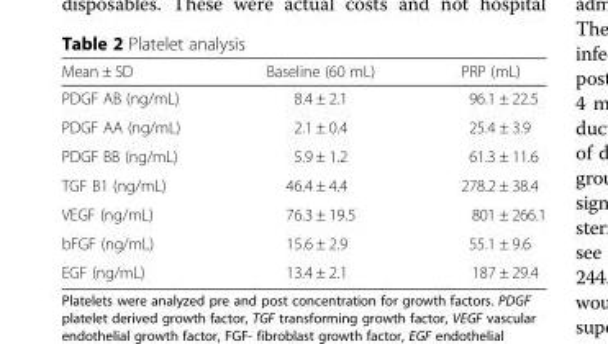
<table><thead><tr><td>Mean ± SD</td><td>Baseline (60 mL)</td><td>PRP (mL)</td></tr></thead><tbody><tr><td>PDGF AB (ng/mL)</td><td>8.4 ± 2.1</td><td>96.1 ± 22.5</td></tr><tr><td>PDGF AA (ng/mL)</td><td>2.1 ± 0.4</td><td>25.4 ± 3.9</td></tr><tr><td>PDGF BB (ng/mL)</td><td>5.9 ± 1.2</td><td>61.3 ± 11.6</td></tr><tr><td>TGF B1 (ng/mL)</td><td>46.4 ± 4.4</td><td>278.2 ± 38.4</td></tr><tr><td>VEGF (ng/mL)</td><td>76.3 ± 19.5</td><td>801 ± 266.1</td></tr><tr><td>bFGF (ng/mL)</td><td>15.6 ± 2.9</td><td>55.1 ± 9.6</td></tr><tr><td>EGF (ng/mL)</td><td>13.4 ± 2.1</td><td>187 ± 29.4</td></tr></tbody></table>